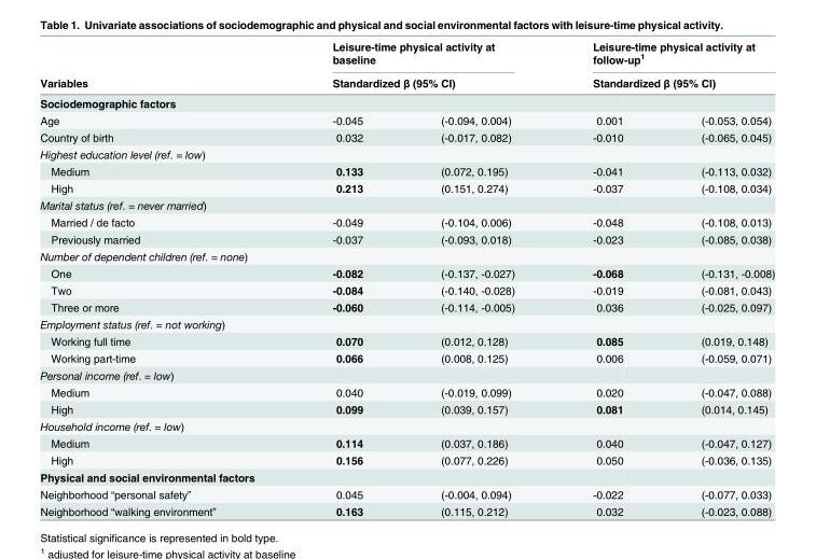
<table><thead><tr><td rowspan="3">Variables Sociodemographic factors</td><td rowspan="2" colspan="2">Leisure-time physical activity at baseline Standardized β (95% CI)</td><td rowspan="2" colspan="2">Leisure-time physical activity at follow-up<sup>1</sup> Standardized β (95% CI)</td></tr><tr></tr><tr><td></td><td></td><td></td><td></td></tr></thead><tbody><tr><td>Age</td><td>-0.045</td><td>(-0.094, 0.004)</td><td>0.001</td><td>(-0.053, 0.054)</td></tr><tr><td>Country of birth</td><td>0.032</td><td>(-0.017, 0.082)</td><td>-0.010</td><td>(-0.065, 0.045)</td></tr><tr><td colspan="5">Highest education level (ref. = low)</td></tr><tr><td>Medium</td><td>0.133</td><td>(0.072, 0.195)</td><td>-0.041</td><td>(-0.113, 0.032)</td></tr><tr><td>High</td><td>0.213</td><td>(0.151, 0.274)</td><td>-0.037</td><td>(-0.108, 0.034)</td></tr><tr><td colspan="5">Marital status (ref. = never married)</td></tr><tr><td>Married / de facto</td><td>-0.049</td><td>(-0.104, 0.006)</td><td>-0.048</td><td>(-0.108, 0.013)</td></tr><tr><td>Previously married</td><td>-0.037</td><td>(-0.093, 0.018)</td><td>-0.023</td><td>(-0.085, 0.038)</td></tr><tr><td colspan="5">Number of dependent children (ref. = none)</td></tr><tr><td>One</td><td>-0.082</td><td>(-0.137, -0.027)</td><td>-0.068</td><td>(-0.131, -0.008)</td></tr><tr><td>Two</td><td>-0.084</td><td>(-0.140, -0.028)</td><td>-0.019</td><td>(-0.081, 0.043)</td></tr><tr><td>Three or more</td><td>-0.060</td><td>(-0.114, -0.005)</td><td>0.036</td><td>(-0.025, 0.097)</td></tr><tr><td colspan="5">Employment status (ref. = not working)</td></tr><tr><td>Working full time</td><td>0.070</td><td>(0.012, 0.128)</td><td>0.085</td><td>(0.019, 0.148)</td></tr><tr><td>Working part-time</td><td>0.066</td><td>(0.008, 0.125)</td><td>0.006</td><td>(-0.059, 0.071)</td></tr><tr><td colspan="5">Personal income (ref. = low)</td></tr><tr><td>Medium</td><td>0.040</td><td>(-0.019, 0.099)</td><td>0.020</td><td>(-0.047, 0.088)</td></tr><tr><td>High</td><td>0.099</td><td>(0.039, 0.157)</td><td>0.081</td><td>(0.014, 0.145)</td></tr><tr><td colspan="5">Household income (ref. = low)</td></tr><tr><td>Medium</td><td>0.114</td><td>(0.037, 0.186)</td><td>0.040</td><td>(-0.047, 0.127)</td></tr><tr><td>High</td><td>0.156</td><td>(0.077, 0.226)</td><td>0.050</td><td>(-0.036, 0.135)</td></tr><tr><td colspan="5">Physical and social environmental factors</td></tr><tr><td>Neighborhood “personal safety”</td><td>0.045</td><td>(-0.004, 0.094)</td><td>-0.022</td><td>(-0.077, 0.033)</td></tr><tr><td>Neighborhood “walking environment”</td><td>0.163</td><td>(0.115, 0.212)</td><td>0.032</td><td>(-0.023, 0.088)</td></tr></tbody></table>